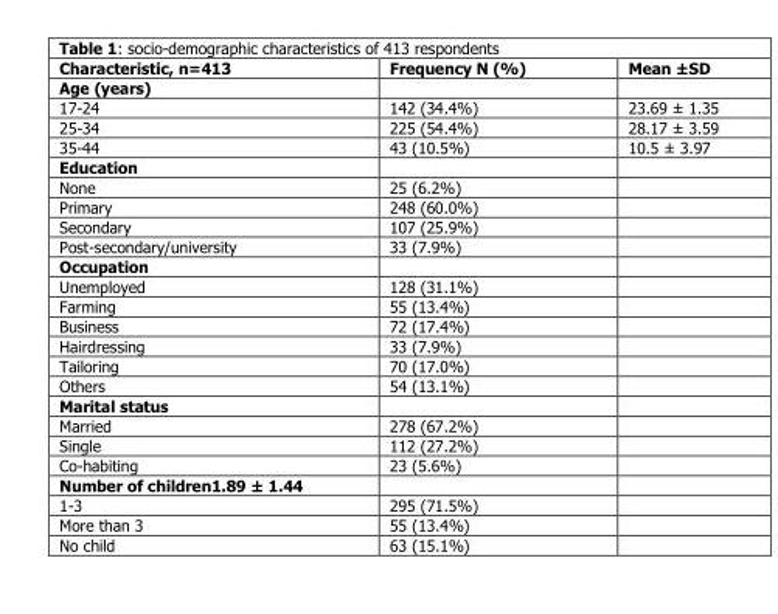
<table><thead><tr><td>Characteristic, n=413</td><td>Frequency N (%)</td><td>Mean ±SD</td></tr></thead><tbody><tr><td colspan="3">Age (years)</td></tr><tr><td>17-24</td><td>142 (34.4%)</td><td>23.69 ± 1.35</td></tr><tr><td>25-34</td><td>225 (54.4%)</td><td>28.17 ± 3.59</td></tr><tr><td>35-44</td><td>43 (10.5%)</td><td>10.5 ± 3.97</td></tr><tr><td colspan="3">Education</td></tr><tr><td>None</td><td>25 (6.2%)</td><td></td></tr><tr><td>Primary</td><td>248 (60.0%)</td><td></td></tr><tr><td>Secondary</td><td>107 (25.9%)</td><td></td></tr><tr><td>Post-secondary/university</td><td>33 (7.9%)</td><td></td></tr><tr><td colspan="3">Occupation</td></tr><tr><td>Unemployed</td><td>128 (31.1%)</td><td></td></tr><tr><td>Farming</td><td>55 (13.4%)</td><td></td></tr><tr><td>Business</td><td>72 (17.4%)</td><td></td></tr><tr><td>Hairdressing</td><td>33 (7.9%)</td><td></td></tr><tr><td>Tailoring</td><td>70 (17.0%)</td><td></td></tr><tr><td>Others</td><td>54 (13.1%)</td><td></td></tr><tr><td colspan="3">Marital status</td></tr><tr><td>Married</td><td>278 (67.2%)</td><td></td></tr><tr><td>Single</td><td>112 (27.2%)</td><td></td></tr><tr><td>Co-habiting</td><td>23 (5.6%)</td><td></td></tr><tr><td colspan="3">Number of children1.89 ± 1.44</td></tr><tr><td>1-3</td><td>295 (71.5%)</td><td></td></tr><tr><td>More than 3</td><td>55 (13.4%)</td><td></td></tr><tr><td>No child</td><td>63 (15.1%)</td><td></td></tr></tbody></table>